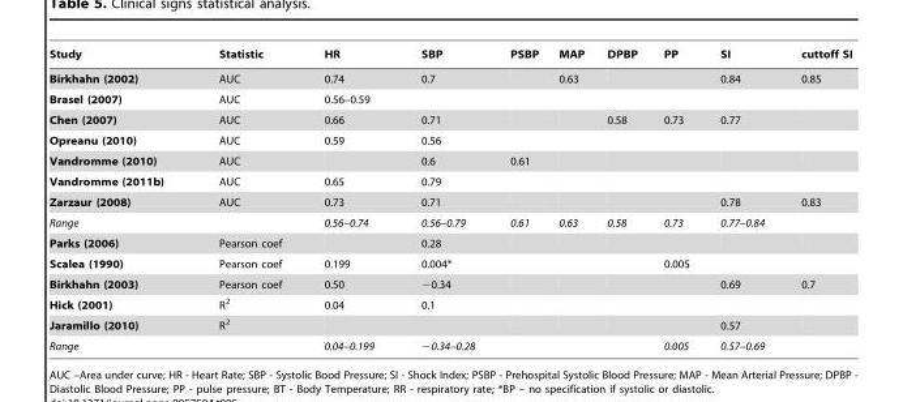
<table><thead><tr><td>Study</td><td>Statistic</td><td>HR</td><td>SBP</td><td>PSBP</td><td>MAP</td><td>DPBP</td><td>PP</td><td>SI</td><td>cuttoff SI</td></tr></thead><tbody><tr><td>Birkhahn (2002)</td><td>AUC</td><td>0.74</td><td>0.7</td><td></td><td>0.63</td><td></td><td></td><td>0.84</td><td>0.85</td></tr><tr><td>Brasel (2007)</td><td>AUC</td><td>0.56–0.59</td><td></td><td></td><td></td><td></td><td></td><td></td><td></td></tr><tr><td>Chen (2007)</td><td>AUC</td><td>0.66</td><td>0.71</td><td></td><td></td><td>0.58</td><td>0.73</td><td>0.77</td><td></td></tr><tr><td>Opreanu (2010)</td><td>AUC</td><td>0.59</td><td>0.56</td><td></td><td></td><td></td><td></td><td></td><td></td></tr><tr><td>Vandromme (2010)</td><td>AUC</td><td></td><td>0.6</td><td>0.61</td><td></td><td></td><td></td><td></td><td></td></tr><tr><td>Vandromme (2011b)</td><td>AUC</td><td>0.65</td><td>0.79</td><td></td><td></td><td></td><td></td><td></td><td></td></tr><tr><td>Zarzaur (2008)</td><td>AUC</td><td>0.73</td><td>0.71</td><td></td><td></td><td></td><td></td><td>0.78</td><td>0.83</td></tr><tr><td colspan="2">Range</td><td>0.56–0.74</td><td>0.56–0.79</td><td>0.61</td><td>0.63</td><td>0.58</td><td>0.73</td><td>0.77–0.84</td><td></td></tr><tr><td>Parks (2006)</td><td>Pearson coef</td><td></td><td>0.28</td><td></td><td></td><td></td><td></td><td></td><td></td></tr><tr><td>Scalea (1990)</td><td>Pearson coef</td><td>0.199</td><td>0.004*</td><td></td><td></td><td></td><td>0.005</td><td></td><td></td></tr><tr><td>Birkhahn (2003)</td><td>Pearson coef</td><td>0.50</td><td>−0.34</td><td></td><td></td><td></td><td></td><td>0.69</td><td>0.7</td></tr><tr><td>Hick (2001)</td><td>R<sup>2</sup></td><td>0.04</td><td>0.1</td><td></td><td></td><td></td><td></td><td></td><td></td></tr><tr><td>Jaramillo (2010)</td><td>R<sup>2</sup></td><td></td><td></td><td></td><td></td><td></td><td></td><td>0.57</td><td></td></tr><tr><td colspan="2">Range</td><td>0.04–0.199</td><td>−0.34–0.28</td><td></td><td></td><td></td><td>0.005</td><td>0.57–0.69</td><td></td></tr></tbody></table>